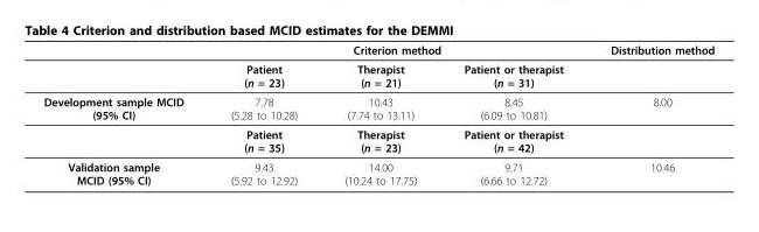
<table><thead><tr><td rowspan="2"></td><td colspan="3">Criterion method</td><td rowspan="2">Distribution method</td></tr><tr><td>Patient (n = 23)</td><td>Therapist (n = 21)</td><td>Patient or therapist (n = 31)</td></tr></thead><tbody><tr><td rowspan="2">Development sample MCID (95% CI)</td><td>7.78 (5.28 to 10.28)</td><td>10.43 (7.74 to 13.11)</td><td>8.45 (6.09 to 10.81)</td><td>8.00</td></tr><tr><td>Patient (n = 35)</td><td>Therapist (n = 23)</td><td>Patient or therapist (n = 42)</td><td></td></tr><tr><td>Validation sample MCID (95% CI)</td><td>9.43 (5.92 to 12.92)</td><td>14.00 (10.24 to 17.75)</td><td>9.71 (6.66 to 12.72)</td><td>10.46</td></tr></tbody></table>